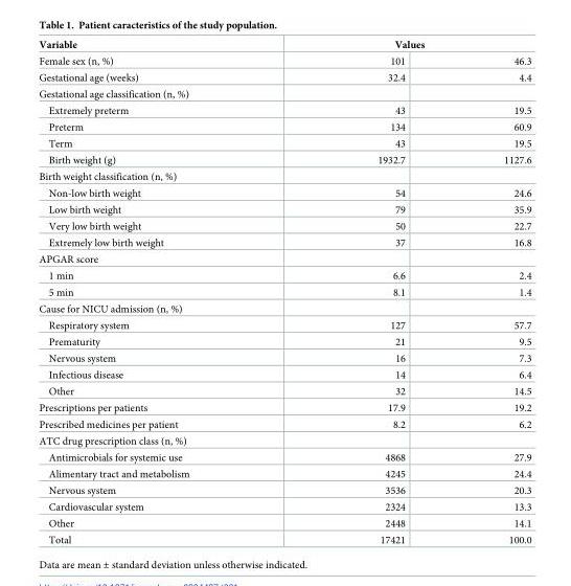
<table><thead><tr><td rowspan="2">Variable Female sex (n, %)</td><td colspan="2">Values</td></tr><tr><td>101</td><td>46.3</td></tr></thead><tbody><tr><td>Gestational age (weeks)</td><td>32.4</td><td>4.4</td></tr><tr><td colspan="3">Gestational age classification (n, %)</td></tr><tr><td>Extremely preterm</td><td>43</td><td>19.5</td></tr><tr><td>Preterm</td><td>134</td><td>60.9</td></tr><tr><td>Term</td><td>43</td><td>19.5</td></tr><tr><td>Birth weight (g)</td><td>1932.7</td><td>1127.6</td></tr><tr><td colspan="3">Birth weight classification (n, %)</td></tr><tr><td>Non-low birth weight</td><td>54</td><td>24.6</td></tr><tr><td>Low birth weight</td><td>79</td><td>35.9</td></tr><tr><td>Very low birth weight</td><td>50</td><td>22.7</td></tr><tr><td>Extremely low birth weight</td><td>37</td><td>16.8</td></tr><tr><td colspan="3">APGAR score</td></tr><tr><td>1 min</td><td>6.6</td><td>2.4</td></tr><tr><td>5 min</td><td>8.1</td><td>1.4</td></tr><tr><td colspan="3">Cause for NICU admission (n, %)</td></tr><tr><td>Respiratory system</td><td>127</td><td>57.7</td></tr><tr><td>Prematurity</td><td>21</td><td>9.5</td></tr><tr><td>Nervous system</td><td>16</td><td>7.3</td></tr><tr><td>Infectious disease</td><td>14</td><td>6.4</td></tr><tr><td>Other</td><td>32</td><td>14.5</td></tr><tr><td>Prescriptions per patients</td><td>17.9</td><td>19.2</td></tr><tr><td>Prescribed medicines per patient</td><td>8.2</td><td>6.2</td></tr><tr><td colspan="3">ATC drug prescription class (n, %)</td></tr><tr><td>Antimicrobials for systemic use</td><td>4868</td><td>27.9</td></tr><tr><td>Alimentary tract and metabolism</td><td>4245</td><td>24.4</td></tr><tr><td>Nervous system</td><td>3536</td><td>20.3</td></tr><tr><td>Cardiovascular system</td><td>2324</td><td>13.3</td></tr><tr><td>Other</td><td>2448</td><td>14.1</td></tr><tr><td>Total</td><td>17421</td><td>100.0</td></tr></tbody></table>